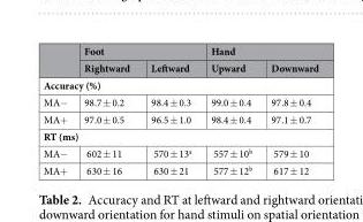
<table><thead><tr><td rowspan="2"></td><td colspan="2">Foot</td><td colspan="2">Hand</td></tr><tr><td>Rightward</td><td>Leftward</td><td>Upward</td><td>Downward</td></tr></thead><tbody><tr><td colspan="5">Accuracy (%)</td></tr><tr><td>MA−</td><td>98.7 ± 0.2</td><td>98.4 ± 0.3</td><td>99.0 ± 0.4</td><td>97.8 ± 0.4</td></tr><tr><td>MA+</td><td>97.0 ± 0.5</td><td>96.5 ± 1.0</td><td>98.4 ± 0.4</td><td>97.1 ± 0.7</td></tr><tr><td colspan="5">RT (ms)</td></tr><tr><td>MA−</td><td>602 ± 11</td><td>570 ± 13<sup>a</sup></td><td>557 ± 10<sup>b</sup></td><td>579 ± 10</td></tr><tr><td>MA+</td><td>630 ± 16</td><td>630 ± 21</td><td>577 ± 12<sup>b</sup></td><td>617 ± 12</td></tr></tbody></table>